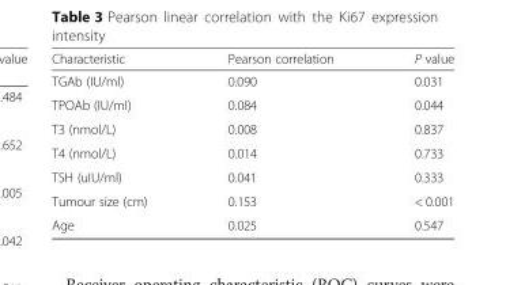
<table><thead><tr><td>Characteristic</td><td>Pearson correlation</td><td>P value</td></tr></thead><tbody><tr><td>TGAb (IU/ml)</td><td>0.090</td><td>0.031</td></tr><tr><td>TPOAb (IU/ml)</td><td>0.084</td><td>0.044</td></tr><tr><td>T3 (nmol/L)</td><td>0.008</td><td>0.837</td></tr><tr><td>T4 (nmol/L)</td><td>0.014</td><td>0.733</td></tr><tr><td>TSH (uIU/ml)</td><td>0.041</td><td>0.333</td></tr><tr><td>Tumour size (cm)</td><td>0.153</td><td>&lt; 0.001</td></tr><tr><td>Age</td><td>0.025</td><td>0.547</td></tr></tbody></table>